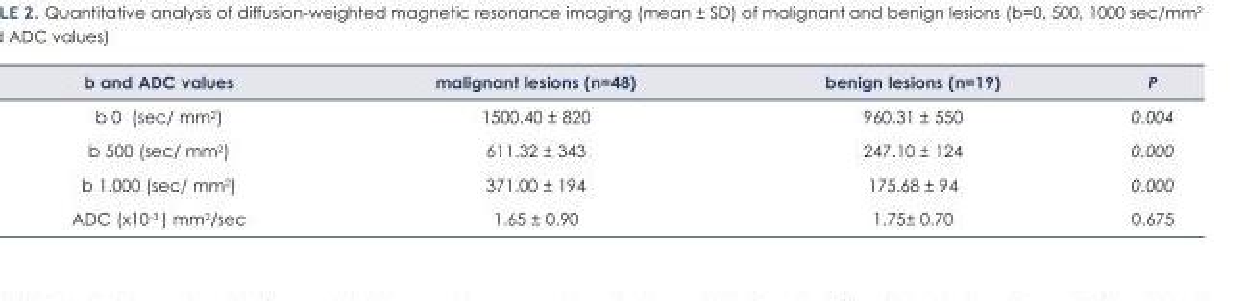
<table><thead><tr><td>b and ADC values</td><td>malignant lesions (n=48)</td><td>benign lesions (n=19)</td><td>P</td></tr></thead><tbody><tr><td>b 0 (sec/ mm<sup>2</sup>)</td><td>1500.40 ± 820</td><td>960.31 ± 550</td><td>0.004</td></tr><tr><td>b 500 (sec/ mm<sup>2</sup>)</td><td>611.32 ± 343</td><td>247.10 ± 124</td><td>0.000</td></tr><tr><td>b 1.000 (sec/ mm<sup>2</sup>)</td><td>371.00 ± 194</td><td>175.68 ± 94</td><td>0.000</td></tr><tr><td>ADC (x10-3 ) mm2/sec</td><td>1.65 ± 0.90</td><td>1.75± 0.70</td><td>0.675</td></tr></tbody></table>